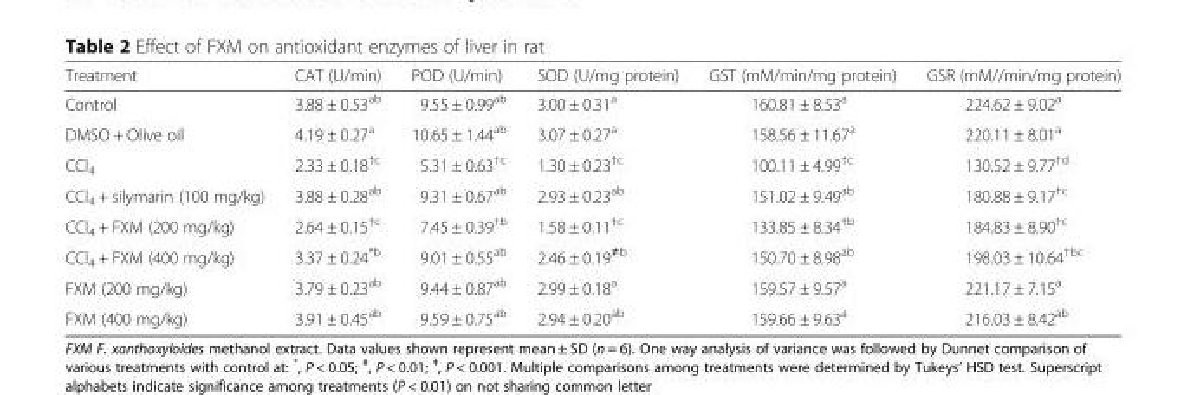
<table><thead><tr><td>Treatment</td><td>CAT (U/min)</td><td>POD (U/min)</td><td>SOD (U/mg protein)</td><td>GST (mM/min/mg protein)</td><td>GSR (mM//min/mg protein)</td></tr></thead><tbody><tr><td>Control</td><td>3.88 ± 0.53<sup>ab</sup></td><td>9.55 ± 0.99<sup>ab</sup></td><td>3.00 ± 0.31<sup>a</sup></td><td>160.81 ± 8.53<sup>a</sup></td><td>224.62 ± 9.02<sup>a</sup></td></tr><tr><td>DMSO + Olive oil</td><td>4.19 ± 0.27<sup>a</sup></td><td>10.65 ± 1.44<sup>ab</sup></td><td>3.07 ± 0.27<sup>a</sup></td><td>158.56 ± 11.67<sup>a</sup></td><td>220.11 ± 8.01<sup>a</sup></td></tr><tr><td>CCl<sub>4</sub></td><td>2.33 ± 0.18<sup>†c</sup></td><td>5.31 ± 0.63<sup>†c</sup></td><td>1.30 ± 0.23<sup>†c</sup></td><td>100.11 ± 4.99<sup>†c</sup></td><td>130.52 ± 9.77<sup>†d</sup></td></tr><tr><td>CCl<sub>4</sub> + silymarin (100 mg/kg)</td><td>3.88 ± 0.28<sup>ab</sup></td><td>9.31 ± 0.67<sup>ab</sup></td><td>2.93 ± 0.23<sup>ab</sup></td><td>151.02 ± 9.49<sup>ab</sup></td><td>180.88 ± 9.17<sup>†c</sup></td></tr><tr><td>CCl<sub>4</sub> + FXM (200 mg/kg)</td><td>2.64 ± 0.15<sup>†c</sup></td><td>7.45 ± 0.39<sup>†b</sup></td><td>1.58 ± 0.11<sup>†c</sup></td><td>133.85 ± 8.34<sup>†b</sup></td><td>184.83 ± 8.90<sup>†c</sup></td></tr><tr><td>CCl<sub>4</sub> + FXM (400 mg/kg)</td><td>3.37 ± 0.24<sup>*b</sup></td><td>9.01 ± 0.55<sup>ab</sup></td><td>2.46 ± 0.19<sup>≠b</sup></td><td>150.70 ± 8.98<sup>ab</sup></td><td>198.03 ± 10.64<sup>†bc</sup></td></tr><tr><td>FXM (200 mg/kg)</td><td>3.79 ± 0.23<sup>ab</sup></td><td>9.44 ± 0.87<sup>ab</sup></td><td>2.99 ± 0.18<sup>a</sup></td><td>159.57 ± 9.57<sup>a</sup></td><td>221.17 ± 7.15<sup>a</sup></td></tr><tr><td>FXM (400 mg/kg)</td><td>3.91 ± 0.45<sup>ab</sup></td><td>9.59 ± 0.75<sup>ab</sup></td><td>2.94 ± 0.20<sup>ab</sup></td><td>159.66 ± 9.63<sup>a</sup></td><td>216.03 ± 8.42<sup>ab</sup></td></tr></tbody></table>